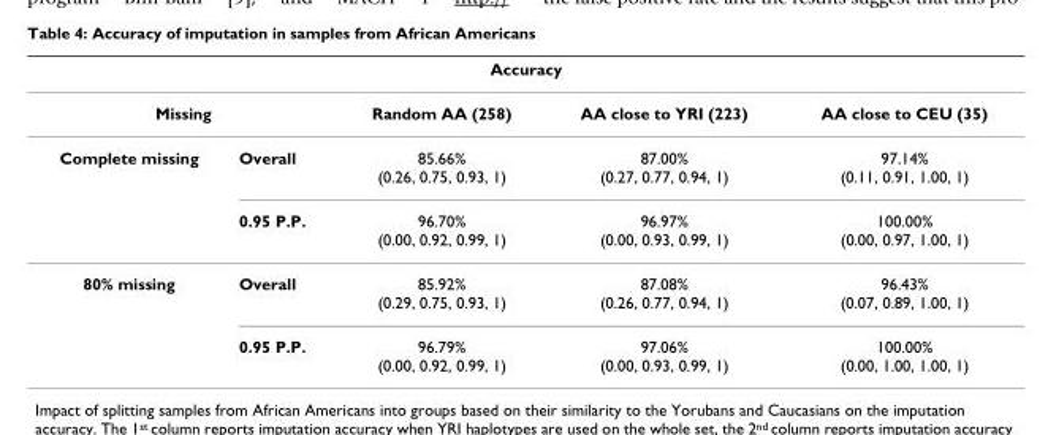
<table><thead><tr><td colspan="5">Accuracy</td></tr><tr><td colspan="2">Missing</td><td rowspan="2">Random AA (258) 85.66% (0.26, 0.75, 0.93, 1)</td><td rowspan="2">AA close to YRI (223) 87.00% (0.27, 0.77, 0.94, 1)</td><td rowspan="2">AA close to CEU (35) 97.14% (0.11, 0.91, 1.00, 1)</td></tr><tr><td>Complete missing</td><td>Overall</td></tr></thead><tbody><tr><td></td><td>0.95 P.P.</td><td>96.70% (0.00, 0.92, 0.99, 1)</td><td>96.97% (0.00, 0.93, 0.99, 1)</td><td>100.00% (0.00, 0.97, 1.00, 1)</td></tr><tr><td rowspan="2">80% missing</td><td>Overall</td><td>85.92% (0.29, 0.75, 0.93, 1)</td><td>87.08% (0.26, 0.77, 0.94, 1)</td><td>96.43% (0.07, 0.89, 1.00, 1)</td></tr><tr><td>0.95 P.P.</td><td>96.79% (0.00, 0.92, 0.99, 1)</td><td>97.06% (0.00, 0.93, 0.99, 1)</td><td>100.00% (0.00, 1.00, 1.00, 1)</td></tr></tbody></table>